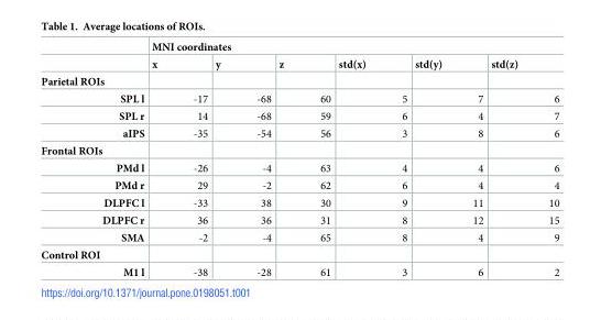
<table><thead><tr><td rowspan="2"></td><td colspan="6">MNI coordinates</td></tr><tr><td>x</td><td>y</td><td>z</td><td>std(x)</td><td>std(y)</td><td>std(z)</td></tr></thead><tbody><tr><td colspan="7">Parietal ROIs</td></tr><tr><td>SPL l</td><td>-17</td><td>-68</td><td>60</td><td>5</td><td>7</td><td>6</td></tr><tr><td>SPL r</td><td>14</td><td>-68</td><td>59</td><td>6</td><td>4</td><td>7</td></tr><tr><td>aIPS</td><td>-35</td><td>-54</td><td>56</td><td>3</td><td>8</td><td>6</td></tr><tr><td colspan="7">Frontal ROIs</td></tr><tr><td>PMd l</td><td>-26</td><td>-4</td><td>63</td><td>4</td><td>4</td><td>6</td></tr><tr><td>PMd r</td><td>29</td><td>-2</td><td>62</td><td>6</td><td>4</td><td>4</td></tr><tr><td>DLPFC l</td><td>-33</td><td>38</td><td>30</td><td>9</td><td>11</td><td>10</td></tr><tr><td>DLPFC r</td><td>36</td><td>36</td><td>31</td><td>8</td><td>12</td><td>15</td></tr><tr><td>SMA</td><td>-2</td><td>-4</td><td>65</td><td>8</td><td>4</td><td>9</td></tr><tr><td colspan="7">Control ROI</td></tr><tr><td>M1 l</td><td>-38</td><td>-28</td><td>61</td><td>3</td><td>6</td><td>2</td></tr></tbody></table>